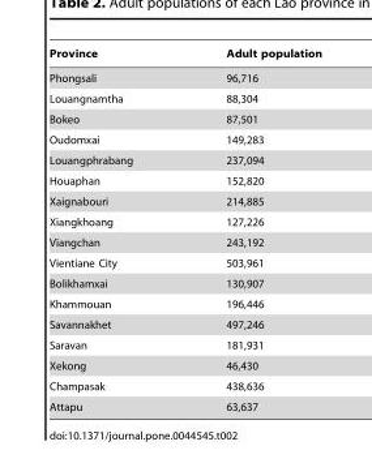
<table><thead><tr><td>Province</td><td>Adult population</td></tr></thead><tbody><tr><td>Phongsali</td><td>96,716</td></tr><tr><td>Louangnamtha</td><td>88,304</td></tr><tr><td>Bokeo</td><td>87,501</td></tr><tr><td>Oudomxai</td><td>149,283</td></tr><tr><td>Louangphrabang</td><td>237,094</td></tr><tr><td>Houaphan</td><td>152,820</td></tr><tr><td>Xaignabouri</td><td>214,885</td></tr><tr><td>Xiangkhoang</td><td>127,226</td></tr><tr><td>Viangchan</td><td>243,192</td></tr><tr><td>Vientiane City</td><td>503,961</td></tr><tr><td>Bolikhamxai</td><td>130,907</td></tr><tr><td>Khammouan</td><td>196,446</td></tr><tr><td>Savannakhet</td><td>497,246</td></tr><tr><td>Saravan</td><td>181,931</td></tr><tr><td>Xekong</td><td>46,430</td></tr><tr><td>Champasak</td><td>438,636</td></tr><tr><td>Attapu</td><td>63,637</td></tr></tbody></table>